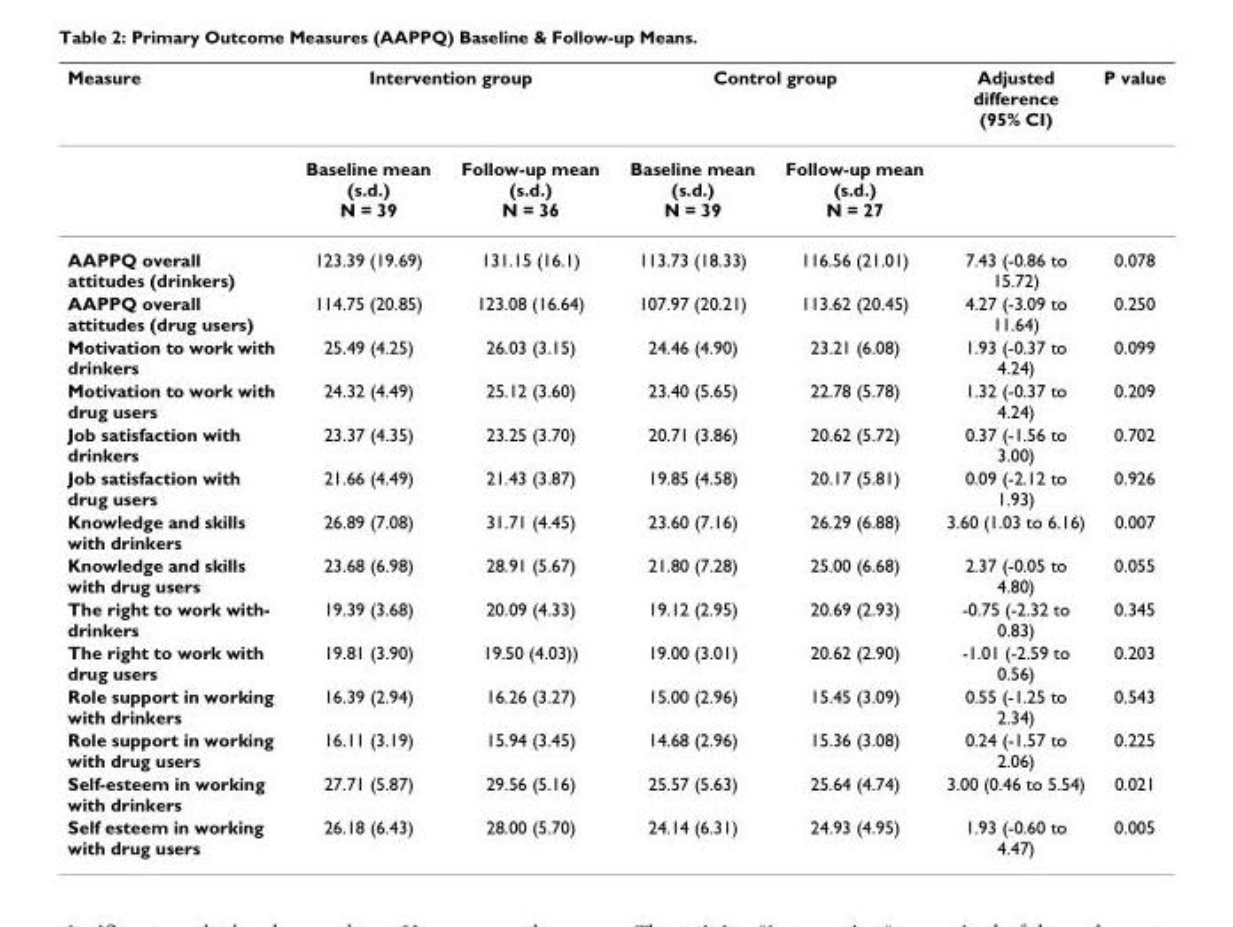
<table><thead><tr><td rowspan="2">Measure</td><td colspan="2">Intervention group</td><td colspan="2">Control group</td><td rowspan="2">Adjusted difference (95% CI)</td><td rowspan="2">P value</td></tr><tr><td>Baseline mean (s.d.) N = 39</td><td>Follow-up mean (s.d.) N = 36</td><td>Baseline mean (s.d.) N = 39</td><td>Follow-up mean (s.d.) N = 27</td></tr></thead><tbody><tr><td>AAPPQ overall attitudes (drinkers)</td><td>123.39 (19.69)</td><td>131.15 (16.1)</td><td>113.73 (18.33)</td><td>116.56 (21.01)</td><td>7.43 (-0.86 to 15.72)</td><td>0.078</td></tr><tr><td>AAPPQ overall attitudes (drug users)</td><td>114.75 (20.85)</td><td>123.08 (16.64)</td><td>107.97 (20.21)</td><td>113.62 (20.45)</td><td>4.27 (-3.09 to 11.64)</td><td>0.250</td></tr><tr><td>Motivation to work with drinkers</td><td>25.49 (4.25)</td><td>26.03 (3.15)</td><td>24.46 (4.90)</td><td>23.21 (6.08)</td><td>1.93 (-0.37 to 4.24)</td><td>0.099</td></tr><tr><td>Motivation to work with drug users</td><td>24.32 (4.49)</td><td>25.12 (3.60)</td><td>23.40 (5.65)</td><td>22.78 (5.78)</td><td>1.32 (-0.37 to 4.24)</td><td>0.209</td></tr><tr><td>Job satisfaction with drinkers</td><td>23.37 (4.35)</td><td>23.25 (3.70)</td><td>20.71 (3.86)</td><td>20.62 (5.72)</td><td>0.37 (-1.56 to 3.00)</td><td>0.702</td></tr><tr><td>Job satisfaction with drug users</td><td>21.66 (4.49)</td><td>21.43 (3.87)</td><td>19.85 (4.58)</td><td>20.17 (5.81)</td><td>0.09 (-2.12 to 1.93)</td><td>0.926</td></tr><tr><td>Knowledge and skills with drinkers</td><td>26.89 (7.08)</td><td>31.71 (4.45)</td><td>23.60 (7.16)</td><td>26.29 (6.88)</td><td>3.60 (1.03 to 6.16)</td><td>0.007</td></tr><tr><td>Knowledge and skills with drug users</td><td>23.68 (6.98)</td><td>28.91 (5.67)</td><td>21.80 (7.28)</td><td>25.00 (6.68)</td><td>2.37 (-0.05 to 4.80)</td><td>0.055</td></tr><tr><td>The right to work with- drinkers</td><td>19.39 (3.68)</td><td>20.09 (4.33)</td><td>19.12 (2.95)</td><td>20.69 (2.93)</td><td>-0.75 (-2.32 to 0.83)</td><td>0.345</td></tr><tr><td>The right to work with drug users</td><td>19.81 (3.90)</td><td>19.50 (4.03))</td><td>19.00 (3.01)</td><td>20.62 (2.90)</td><td>-1.01 (-2.59 to 0.56)</td><td>0.203</td></tr><tr><td>Role support in working with drinkers</td><td>16.39 (2.94)</td><td>16.26 (3.27)</td><td>15.00 (2.96)</td><td>15.45 (3.09)</td><td>0.55 (-1.25 to 2.34)</td><td>0.543</td></tr><tr><td>Role support in working with drug users</td><td>16.11 (3.19)</td><td>15.94 (3.45)</td><td>14.68 (2.96)</td><td>15.36 (3.08)</td><td>0.24 (-1.57 to 2.06)</td><td>0.225</td></tr><tr><td>Self-esteem in working with drinkers</td><td>27.71 (5.87)</td><td>29.56 (5.16)</td><td>25.57 (5.63)</td><td>25.64 (4.74)</td><td>3.00 (0.46 to 5.54)</td><td>0.021</td></tr><tr><td>Self esteem in working with drug users</td><td>26.18 (6.43)</td><td>28.00 (5.70)</td><td>24.14 (6.31)</td><td>24.93 (4.95)</td><td>1.93 (-0.60 to 4.47)</td><td>0.005</td></tr></tbody></table>